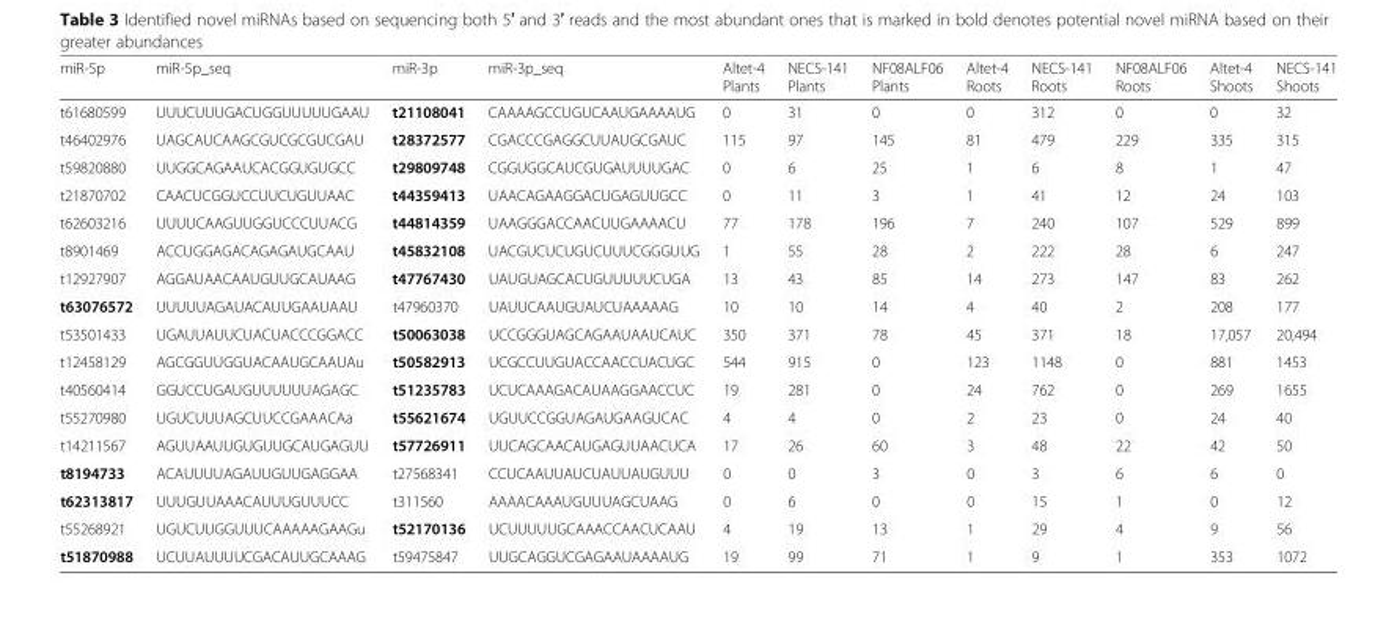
<table><thead><tr><td>miR-5p</td><td>miR-5p_seq</td><td>miR-3p</td><td>miR-3p_seq</td><td>Altet-4 Plants</td><td>NECS-141 Plants</td><td>NF08ALF06 Plants</td><td>Altet-4 Roots</td><td>NECS-141 Roots</td><td>NF08ALF06 Roots</td><td>Altet-4 Shoots</td><td>NECS-141 Shoots</td></tr></thead><tbody><tr><td>t61680599</td><td>UUUCUUUGACUGGUUUUUGAAU</td><td>t21108041</td><td>CAAAAGCCUGUCAAUGAAAAUG</td><td>0</td><td>31</td><td>0</td><td>0</td><td>312</td><td>0</td><td>0</td><td>32</td></tr><tr><td>t46402976</td><td>UAGCAUCAAGCGUCGCGUCGAU</td><td>t28372577</td><td>CGACCCGAGGCUUAUGCGAUC</td><td>115</td><td>97</td><td>145</td><td>81</td><td>479</td><td>229</td><td>335</td><td>315</td></tr><tr><td>t59820880</td><td>UUGGCAGAAUCACGGUGUGCC</td><td>t29809748</td><td>CGGUGGCAUCGUGAUUUUGAC</td><td>0</td><td>6</td><td>25</td><td>1</td><td>6</td><td>8</td><td>1</td><td>47</td></tr><tr><td>t21870702</td><td>CAACUCGGUCCUUCUGUUAAC</td><td>t44359413</td><td>UAACAGAAGGACUGAGUUGCC</td><td>0</td><td>11</td><td>3</td><td>1</td><td>41</td><td>12</td><td>24</td><td>103</td></tr><tr><td>t62603216</td><td>UUUUCAAGUUGGUCCCUUACG</td><td>t44814359</td><td>UAAGGGACCAACUUGAAAACU</td><td>77</td><td>178</td><td>196</td><td>7</td><td>240</td><td>107</td><td>529</td><td>899</td></tr><tr><td>t8901469</td><td>ACCUGGAGACAGAGAUGCAAU</td><td>t45832108</td><td>UACGUCUCUGUCUUUCGGGUUG</td><td>1</td><td>55</td><td>28</td><td>2</td><td>222</td><td>28</td><td>6</td><td>247</td></tr><tr><td>t12927907</td><td>AGGAUAACAAUGUUGCAUAAG</td><td>t47767430</td><td>UAUGUAGCACUGUUUUUCUGA</td><td>13</td><td>43</td><td>85</td><td>14</td><td>273</td><td>147</td><td>83</td><td>262</td></tr><tr><td>t63076572</td><td>UUUUUAGAUACAUUGAAUAAU</td><td>t47960370</td><td>UAUUCAAUGUAUCUAAAAAG</td><td>10</td><td>10</td><td>14</td><td>4</td><td>40</td><td>2</td><td>208</td><td>177</td></tr><tr><td>t53501433</td><td>UGAUUAUUCUACUACCCGGACC</td><td>t50063038</td><td>UCCGGGUAGCAGAAUAAUCAUC</td><td>350</td><td>371</td><td>78</td><td>45</td><td>371</td><td>18</td><td>17,057</td><td>20,494</td></tr><tr><td>t12458129</td><td>AGCGGUUGGUACAAUGCAAUAu</td><td>t50582913</td><td>UCGCCUUGUACCAACCUACUGC</td><td>544</td><td>915</td><td>0</td><td>123</td><td>1148</td><td>0</td><td>881</td><td>1453</td></tr><tr><td>t40560414</td><td>GGUCCUGAUGUUUUUUAGAGC</td><td>t51235783</td><td>UCUCAAAGACAUAAGGAACCUC</td><td>19</td><td>281</td><td>0</td><td>24</td><td>762</td><td>0</td><td>269</td><td>1655</td></tr><tr><td>t55270980</td><td>UGUCUUUAGCUUCCGAAACAa</td><td>t55621674</td><td>UGUUCCGGUAGAUGAAGUCAC</td><td>4</td><td>4</td><td>0</td><td>2</td><td>23</td><td>0</td><td>24</td><td>40</td></tr><tr><td>t14211567</td><td>AGUUAAUUGUGUUGCAUGAGUU</td><td>t57726911</td><td>UUCAGCAACAUGAGUUAACUCA</td><td>17</td><td>26</td><td>60</td><td>3</td><td>48</td><td>22</td><td>42</td><td>50</td></tr><tr><td>t8194733</td><td>ACAUUUUAGAUUGUUGAGGAA</td><td>t27568341</td><td>CCUCAAUUAUCUAUUAUGUUU</td><td>0</td><td>0</td><td>3</td><td>0</td><td>3</td><td>6</td><td>6</td><td>0</td></tr><tr><td>t62313817</td><td>UUUGUUAAACAUUUGUUUCC</td><td>t311560</td><td>AAAACAAAUGUUUAGCUAAG</td><td>0</td><td>6</td><td>0</td><td>0</td><td>15</td><td>1</td><td>0</td><td>12</td></tr><tr><td>t55268921</td><td>UGUCUUGGUUUCAAAAAGAAGu</td><td>t52170136</td><td>UCUUUUUGCAAACCAACUCAAU</td><td>4</td><td>19</td><td>13</td><td>1</td><td>29</td><td>4</td><td>9</td><td>56</td></tr><tr><td>t51870988</td><td>UCUUAUUUUCGACAUUGCAAAG</td><td>t59475847</td><td>UUGCAGGUCGAGAAUAAAAUG</td><td>19</td><td>99</td><td>71</td><td>1</td><td>9</td><td>1</td><td>353</td><td>1072</td></tr></tbody></table>